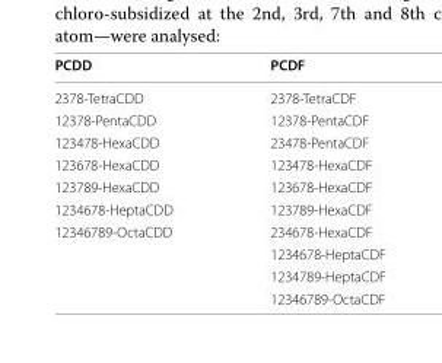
<table><thead><tr><td>PCDD</td><td>PCDF</td></tr></thead><tbody><tr><td>2378-TetraCDD</td><td>2378-TetraCDF</td></tr><tr><td>12378-PentaCDD</td><td>12378-PentaCDF</td></tr><tr><td>123478-HexaCDD</td><td>23478-PentaCDF</td></tr><tr><td>123678-HexaCDD</td><td>123478-HexaCDF</td></tr><tr><td>123789-HexaCDD</td><td>123678-HexaCDF</td></tr><tr><td>1234678-HeptaCDD</td><td>123789-HexaCDF</td></tr><tr><td rowspan="4">12346789-OctaCDD</td><td>234678-HexaCDF</td></tr><tr><td>1234678-HeptaCDF</td></tr><tr><td>1234789-HeptaCDF</td></tr><tr><td>12346789-OctaCDF</td></tr></tbody></table>